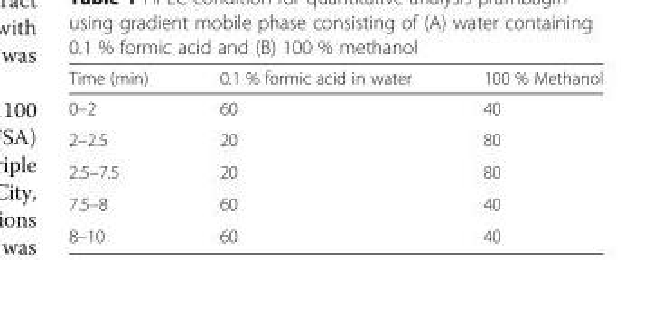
<table><thead><tr><td>Time (min)</td><td>0.1 % formic acid in water</td><td>100 % Methanol</td></tr></thead><tbody><tr><td>0–2</td><td>60</td><td>40</td></tr><tr><td>2–2.5</td><td>20</td><td>80</td></tr><tr><td>2.5–7.5</td><td>20</td><td>80</td></tr><tr><td>7.5–8</td><td>60</td><td>40</td></tr><tr><td>8–10</td><td>60</td><td>40</td></tr></tbody></table>